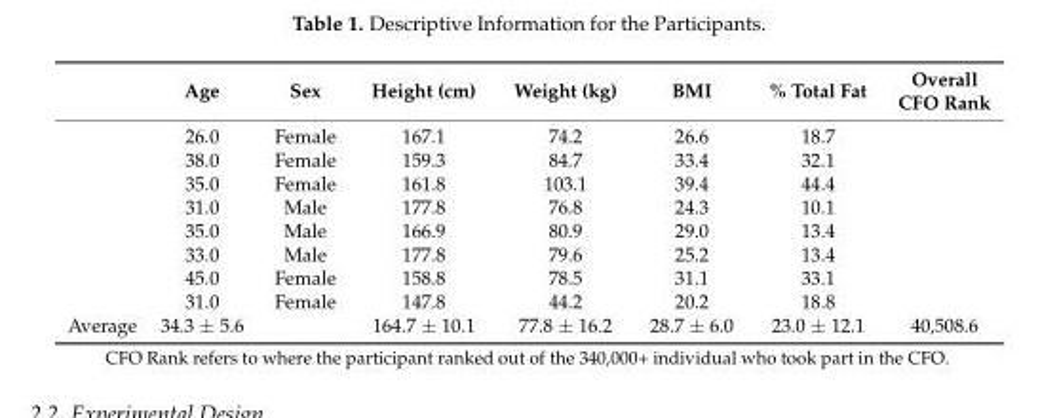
<table><thead><tr><td></td><td>Age</td><td>Sex</td><td>Height (cm)</td><td>Weight (kg)</td><td>BMI</td><td>% Total Fat</td><td>Overall CFO Rank</td></tr></thead><tbody><tr><td></td><td>26.0</td><td>Female</td><td>167.1</td><td>74.2</td><td>26.6</td><td>18.7</td><td></td></tr><tr><td></td><td>38.0</td><td>Female</td><td>159.3</td><td>84.7</td><td>33.4</td><td>32.1</td><td></td></tr><tr><td></td><td>35.0</td><td>Female</td><td>161.8</td><td>103.1</td><td>39.4</td><td>44.4</td><td></td></tr><tr><td></td><td>31.0</td><td>Male</td><td>177.8</td><td>76.8</td><td>24.3</td><td>10.1</td><td></td></tr><tr><td></td><td>35.0</td><td>Male</td><td>166.9</td><td>80.9</td><td>29.0</td><td>13.4</td><td></td></tr><tr><td></td><td>33.0</td><td>Male</td><td>177.8</td><td>79.6</td><td>25.2</td><td>13.4</td><td></td></tr><tr><td></td><td>45.0</td><td>Female</td><td>158.8</td><td>78.5</td><td>31.1</td><td>33.1</td><td></td></tr><tr><td></td><td>31.0</td><td>Female</td><td>147.8</td><td>44.2</td><td>20.2</td><td>18.8</td><td></td></tr><tr><td>Average</td><td>34.3 ± 5.6</td><td></td><td>164.7 ± 10.1</td><td>77.8 ± 16.2</td><td>28.7 ± 6.0</td><td>23.0 ± 12.1</td><td>40,508.6</td></tr></tbody></table>